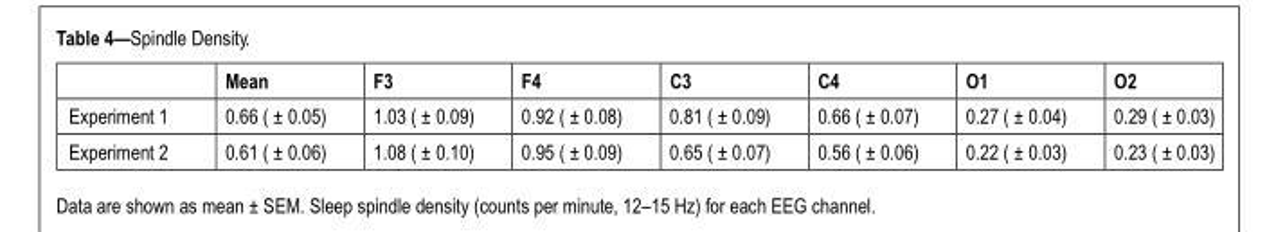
<table><thead><tr><td></td><td>Mean</td><td>F3</td><td>F4</td><td>C3</td><td>C4</td><td>O1</td><td>O2</td></tr></thead><tbody><tr><td>Experiment 1</td><td>0.66 ( ± 0.05)</td><td>1.03 ( ± 0.09)</td><td>0.92 ( ± 0.08)</td><td>0.81 ( ± 0.09)</td><td>0.66 ( ± 0.07)</td><td>0.27 ( ± 0.04)</td><td>0.29 ( ± 0.03)</td></tr><tr><td>Experiment 2</td><td>0.61 ( ± 0.06)</td><td>1.08 ( ± 0.10)</td><td>0.95 ( ± 0.09)</td><td>0.65 ( ± 0.07)</td><td>0.56 ( ± 0.06)</td><td>0.22 ( ± 0.03)</td><td>0.23 ( ± 0.03)</td></tr></tbody></table>